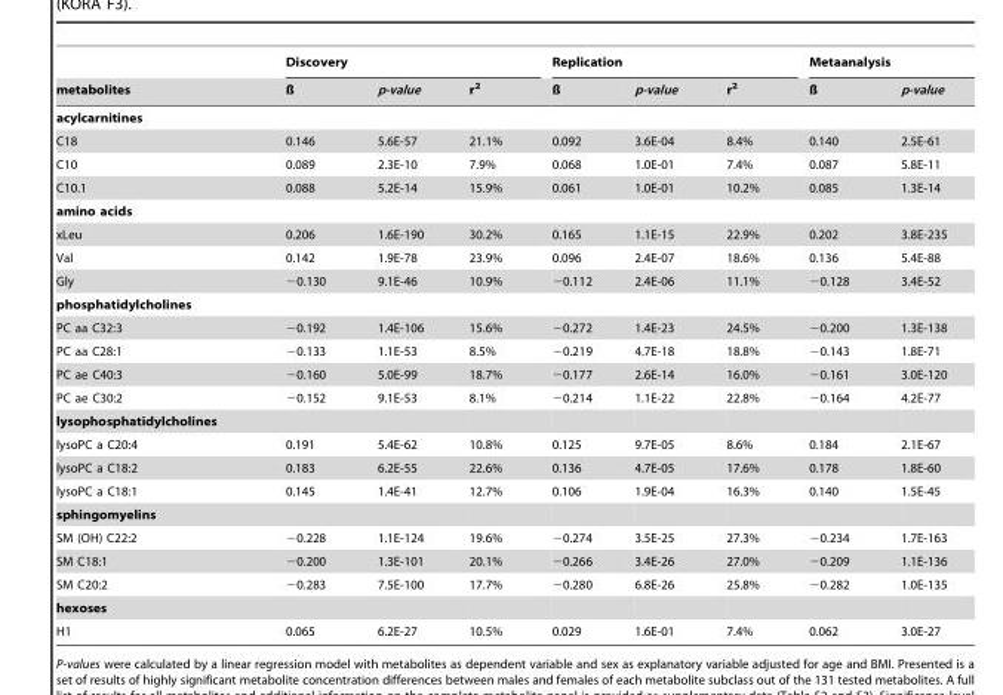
<table><thead><tr><td rowspan="2">metabolites</td><td colspan="3">Discovery</td><td colspan="3">Replication</td><td colspan="2">Metaanalysis</td></tr><tr><td>ß</td><td>p-value</td><td>r<sup>2</sup></td><td>ß</td><td>p-value</td><td>r<sup>2</sup></td><td>ß</td><td>p-value</td></tr></thead><tbody><tr><td colspan="9">acylcarnitines</td></tr><tr><td>C18</td><td>0.146</td><td>5.6E-57</td><td>21.1%</td><td>0.092</td><td>3.6E-04</td><td>8.4%</td><td>0.140</td><td>2.5E-61</td></tr><tr><td>C10</td><td>0.089</td><td>2.3E-10</td><td>7.9%</td><td>0.068</td><td>1.0E-01</td><td>7.4%</td><td>0.087</td><td>5.8E-11</td></tr><tr><td>C10.1</td><td>0.088</td><td>5.2E-14</td><td>15.9%</td><td>0.061</td><td>1.0E-01</td><td>10.2%</td><td>0.085</td><td>1.3E-14</td></tr><tr><td colspan="9">amino acids</td></tr><tr><td>xLeu</td><td>0.206</td><td>1.6E-190</td><td>30.2%</td><td>0.165</td><td>1.1E-15</td><td>22.9%</td><td>0.202</td><td>3.8E-235</td></tr><tr><td>Val</td><td>0.142</td><td>1.9E-78</td><td>23.9%</td><td>0.096</td><td>2.4E-07</td><td>18.6%</td><td>0.136</td><td>5.4E-88</td></tr><tr><td>Gly</td><td>−0.130</td><td>9.1E-46</td><td>10.9%</td><td>−0.112</td><td>2.4E-06</td><td>11.1%</td><td>−0.128</td><td>3.4E-52</td></tr><tr><td colspan="9">phosphatidylcholines</td></tr><tr><td>PC aa C32:3</td><td>−0.192</td><td>1.4E-106</td><td>15.6%</td><td>−0.272</td><td>1.4E-23</td><td>24.5%</td><td>−0.200</td><td>1.3E-138</td></tr><tr><td>PC aa C28:1</td><td>−0.133</td><td>1.1E-53</td><td>8.5%</td><td>−0.219</td><td>4.7E-18</td><td>18.8%</td><td>−0.143</td><td>1.8E-71</td></tr><tr><td>PC ae C40:3</td><td>−0.160</td><td>5.0E-99</td><td>18.7%</td><td>−0.177</td><td>2.6E-14</td><td>16.0%</td><td>−0.161</td><td>3.0E-120</td></tr><tr><td>PC ae C30:2</td><td>−0.152</td><td>9.1E-53</td><td>8.1%</td><td>−0.214</td><td>1.1E-22</td><td>22.8%</td><td>−0.164</td><td>4.2E-77</td></tr><tr><td colspan="9">lysophosphatidylcholines</td></tr><tr><td>lysoPC a C20:4</td><td>0.191</td><td>5.4E-62</td><td>10.8%</td><td>0.125</td><td>9.7E-05</td><td>8.6%</td><td>0.184</td><td>2.1E-67</td></tr><tr><td>lysoPC a C18:2</td><td>0.183</td><td>6.2E-55</td><td>22.6%</td><td>0.136</td><td>4.7E-05</td><td>17.6%</td><td>0.178</td><td>1.8E-60</td></tr><tr><td>lysoPC a C18:1</td><td>0.145</td><td>1.4E-41</td><td>12.7%</td><td>0.106</td><td>1.9E-04</td><td>16.3%</td><td>0.140</td><td>1.5E-45</td></tr><tr><td colspan="9">sphingomyelins</td></tr><tr><td>SM (OH) C22:2</td><td>−0.228</td><td>1.1E-124</td><td>19.6%</td><td>−0.274</td><td>3.5E-25</td><td>27.3%</td><td>−0.234</td><td>1.7E-163</td></tr><tr><td>SM C18:1</td><td>−0.200</td><td>1.3E-101</td><td>20.1%</td><td>−0.266</td><td>3.4E-26</td><td>27.0%</td><td>−0.209</td><td>1.1E-136</td></tr><tr><td>SM C20:2</td><td>−0.283</td><td>7.5E-100</td><td>17.7%</td><td>−0.280</td><td>6.8E-26</td><td>25.8%</td><td>−0.282</td><td>1.0E-135</td></tr><tr><td colspan="9">hexoses</td></tr><tr><td>H1</td><td>0.065</td><td>6.2E-27</td><td>10.5%</td><td>0.029</td><td>1.6E-01</td><td>7.4%</td><td>0.062</td><td>3.0E-27</td></tr></tbody></table>